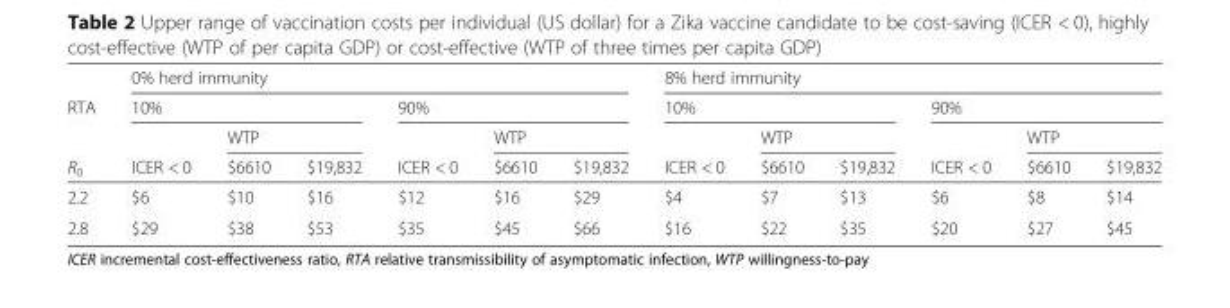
<table><thead><tr><td rowspan="4">RTA R<sub>0</sub></td><td colspan="6">0% herd immunity</td><td colspan="6">8% herd immunity</td></tr><tr><td colspan="3">10%</td><td colspan="3">90%</td><td colspan="3">10%</td><td colspan="3">90%</td></tr><tr><td rowspan="2">ICER &lt; 0</td><td colspan="2">WTP</td><td rowspan="2">ICER &lt; 0</td><td colspan="2">WTP</td><td rowspan="2">ICER &lt; 0</td><td colspan="2">WTP</td><td rowspan="2">ICER &lt; 0</td><td colspan="2">WTP</td></tr><tr><td>$6610</td><td>$19,832</td><td>$6610</td><td>$19,832</td><td>$6610</td><td>$19,832</td><td>$6610</td><td>$19,832</td></tr></thead><tbody><tr><td>2.2</td><td>$6</td><td>$10</td><td>$16</td><td>$12</td><td>$16</td><td>$29</td><td>$4</td><td>$7</td><td>$13</td><td>$6</td><td>$8</td><td>$14</td></tr><tr><td>2.8</td><td>$29</td><td>$38</td><td>$53</td><td>$35</td><td>$45</td><td>$66</td><td>$16</td><td>$22</td><td>$35</td><td>$20</td><td>$27</td><td>$45</td></tr></tbody></table>